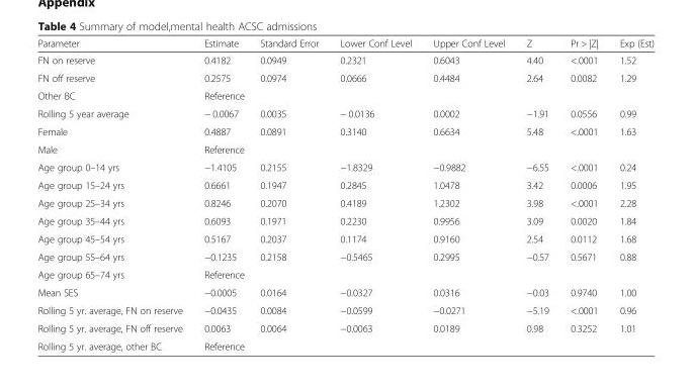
<table><thead><tr><td>Parameter</td><td>Estimate</td><td>Standard Error</td><td>Lower Conf Level</td><td>Upper Conf Level</td><td>Z</td><td>Pr &gt; |Z|</td><td>Exp (Est)</td></tr></thead><tbody><tr><td>FN on reserve</td><td>0.4182</td><td>0.0949</td><td>0.2321</td><td>0.6043</td><td>4.40</td><td>&lt;.0001</td><td>1.52</td></tr><tr><td>FN off reserve</td><td>0.2575</td><td>0.0974</td><td>0.0666</td><td>0.4484</td><td>2.64</td><td>0.0082</td><td>1.29</td></tr><tr><td>Other BC</td><td colspan="7">Reference</td></tr><tr><td>Rolling 5 year average</td><td>− 0.0067</td><td>0.0035</td><td>− 0.0136</td><td>0.0002</td><td>−1.91</td><td>0.0556</td><td>0.99</td></tr><tr><td>Female</td><td>0.4887</td><td>0.0891</td><td>0.3140</td><td>0.6634</td><td>5.48</td><td>&lt;.0001</td><td>1.63</td></tr><tr><td>Male</td><td colspan="7">Reference</td></tr><tr><td>Age group 0–14 yrs</td><td>−1.4105</td><td>0.2155</td><td>−1.8329</td><td>−0.9882</td><td>−6.55</td><td>&lt;.0001</td><td>0.24</td></tr><tr><td>Age group 15–24 yrs</td><td>0.6661</td><td>0.1947</td><td>0.2845</td><td>1.0478</td><td>3.42</td><td>0.0006</td><td>1.95</td></tr><tr><td>Age group 25–34 yrs</td><td>0.8246</td><td>0.2070</td><td>0.4189</td><td>1.2302</td><td>3.98</td><td>&lt;.0001</td><td>2.28</td></tr><tr><td>Age group 35–44 yrs</td><td>0.6093</td><td>0.1971</td><td>0.2230</td><td>0.9956</td><td>3.09</td><td>0.0020</td><td>1.84</td></tr><tr><td>Age group 45–54 yrs</td><td>0.5167</td><td>0.2037</td><td>0.1174</td><td>0.9160</td><td>2.54</td><td>0.0112</td><td>1.68</td></tr><tr><td>Age group 55–64 yrs</td><td>−0.1235</td><td>0.2158</td><td>−0.5465</td><td>0.2995</td><td>−0.57</td><td>0.5671</td><td>0.88</td></tr><tr><td>Age group 65–74 yrs</td><td colspan="7">Reference</td></tr><tr><td>Mean SES</td><td>−0.0005</td><td>0.0164</td><td>−0.0327</td><td>0.0316</td><td>−0.03</td><td>0.9740</td><td>1.00</td></tr><tr><td>Rolling 5 yr. average, FN on reserve</td><td>−0.0435</td><td>0.0084</td><td>−0.0599</td><td>−0.0271</td><td>−5.19</td><td>&lt;.0001</td><td>0.96</td></tr><tr><td>Rolling 5 yr. average, FN off reserve</td><td>0.0063</td><td>0.0064</td><td>−0.0063</td><td>0.0189</td><td>0.98</td><td>0.3252</td><td>1.01</td></tr><tr><td>Rolling 5 yr. average, other BC</td><td colspan="7">Reference</td></tr></tbody></table>